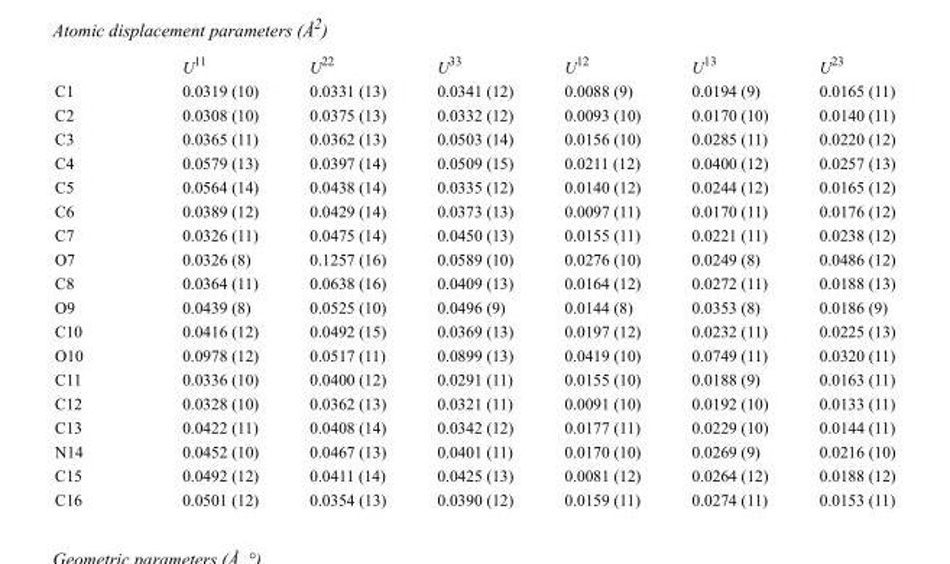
<table><thead><tr><td></td><td>U<sup>11</sup></td><td>U<sup>22</sup></td><td>U<sup>33</sup></td><td>U<sup>12</sup></td><td>U<sup>13</sup></td><td>U<sup>23</sup></td></tr></thead><tbody><tr><td>C1</td><td>0.0319 (10)</td><td>0.0331 (13)</td><td>0.0341 (12)</td><td>0.0088 (9)</td><td>0.0194 (9)</td><td>0.0165 (11)</td></tr><tr><td>C2</td><td>0.0308 (10)</td><td>0.0375 (13)</td><td>0.0332 (12)</td><td>0.0093 (10)</td><td>0.0170 (10)</td><td>0.0140 (11)</td></tr><tr><td>C3</td><td>0.0365 (11)</td><td>0.0362 (13)</td><td>0.0503 (14)</td><td>0.0156 (10)</td><td>0.0285 (11)</td><td>0.0220 (12)</td></tr><tr><td>C4</td><td>0.0579 (13)</td><td>0.0397 (14)</td><td>0.0509 (15)</td><td>0.0211 (12)</td><td>0.0400 (12)</td><td>0.0257 (13)</td></tr><tr><td>C5</td><td>0.0564 (14)</td><td>0.0438 (14)</td><td>0.0335 (12)</td><td>0.0140 (12)</td><td>0.0244 (12)</td><td>0.0165 (12)</td></tr><tr><td>C6</td><td>0.0389 (12)</td><td>0.0429 (14)</td><td>0.0373 (13)</td><td>0.0097 (11)</td><td>0.0170 (11)</td><td>0.0176 (12)</td></tr><tr><td>C7</td><td>0.0326 (11)</td><td>0.0475 (14)</td><td>0.0450 (13)</td><td>0.0155 (11)</td><td>0.0221 (11)</td><td>0.0238 (12)</td></tr><tr><td>O7</td><td>0.0326 (8)</td><td>0.1257 (16)</td><td>0.0589 (10)</td><td>0.0276 (10)</td><td>0.0249 (8)</td><td>0.0486 (12)</td></tr><tr><td>C8</td><td>0.0364 (11)</td><td>0.0638 (16)</td><td>0.0409 (13)</td><td>0.0164 (12)</td><td>0.0272 (11)</td><td>0.0188 (13)</td></tr><tr><td>O9</td><td>0.0439 (8)</td><td>0.0525 (10)</td><td>0.0496 (9)</td><td>0.0144 (8)</td><td>0.0353 (8)</td><td>0.0186 (9)</td></tr><tr><td>C10</td><td>0.0416 (12)</td><td>0.0492 (15)</td><td>0.0369 (13)</td><td>0.0197 (12)</td><td>0.0232 (11)</td><td>0.0225 (13)</td></tr><tr><td>O10</td><td>0.0978 (12)</td><td>0.0517 (11)</td><td>0.0899 (13)</td><td>0.0419 (10)</td><td>0.0749 (11)</td><td>0.0320 (11)</td></tr><tr><td>C11</td><td>0.0336 (10)</td><td>0.0400 (12)</td><td>0.0291 (11)</td><td>0.0155 (10)</td><td>0.0188 (9)</td><td>0.0163 (11)</td></tr><tr><td>C12</td><td>0.0328 (10)</td><td>0.0362 (13)</td><td>0.0321 (11)</td><td>0.0091 (10)</td><td>0.0192 (10)</td><td>0.0133 (11)</td></tr><tr><td>C13</td><td>0.0422 (11)</td><td>0.0408 (14)</td><td>0.0342 (12)</td><td>0.0177 (11)</td><td>0.0229 (10)</td><td>0.0144 (11)</td></tr><tr><td>N14</td><td>0.0452 (10)</td><td>0.0467 (13)</td><td>0.0401 (11)</td><td>0.0170 (10)</td><td>0.0269 (9)</td><td>0.0216 (10)</td></tr><tr><td>C15</td><td>0.0492 (12)</td><td>0.0411 (14)</td><td>0.0425 (13)</td><td>0.0081 (12)</td><td>0.0264 (12)</td><td>0.0188 (12)</td></tr><tr><td>C16</td><td>0.0501 (12)</td><td>0.0354 (13)</td><td>0.0390 (12)</td><td>0.0159 (11)</td><td>0.0274 (11)</td><td>0.0153 (11)</td></tr></tbody></table>